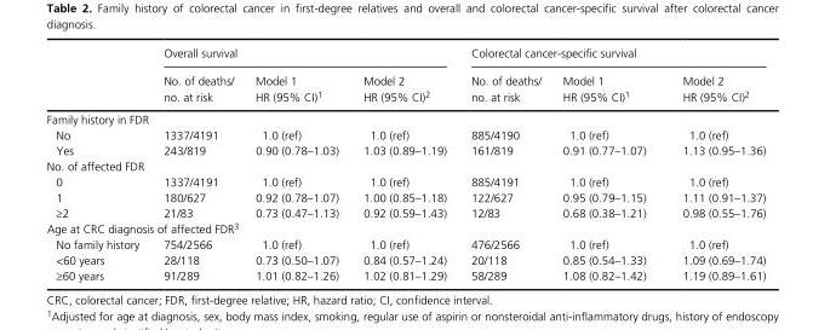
<table><thead><tr><td rowspan="2"></td><td colspan="3">Overall survival</td><td colspan="3">Colorectal cancer- specific survival</td></tr><tr><td>No. of deaths/ no. at risk</td><td>Model 1 HR (95% CI)1</td><td>Model 2 HR (95% CI)2</td><td>No. of deaths/ no. at risk</td><td>Model 1 HR (95% CI)1</td><td>Model 2 HR (95% CI)2</td></tr></thead><tbody><tr><td colspan="7">Family history in FDR</td></tr><tr><td>No</td><td>1337/4191</td><td>1.0 (ref)</td><td>1.0 (ref)</td><td>885/4190</td><td>1.0 (ref)</td><td>1.0 (ref)</td></tr><tr><td>Yes</td><td>243/819</td><td>0.90 (0.78–1.03)</td><td>1.03 (0.89–1.19)</td><td>161/819</td><td>0.91 (0.77–1.07)</td><td>1.13 (0.95–1.36)</td></tr><tr><td colspan="7">No. of affected FDR</td></tr><tr><td>0</td><td>1337/4191</td><td>1.0 (ref)</td><td>1.0 (ref)</td><td>885/4191</td><td>1.0 (ref)</td><td>1.0 (ref)</td></tr><tr><td>1</td><td>180/627</td><td>0.92 (0.78–1.07)</td><td>1.00 (0.85–1.18)</td><td>122/627</td><td>0.95 (0.79–1.15)</td><td>1.11 (0.91–1.37)</td></tr><tr><td>≥2</td><td>21/83</td><td>0.73 (0.47–1.13)</td><td>0.92 (0.59–1.43)</td><td>12/83</td><td>0.68 (0.38–1.21)</td><td>0.98 (0.55–1.76)</td></tr><tr><td colspan="7">Age at CRC diagnosis of affected FDR3</td></tr><tr><td>No family history</td><td>754/2566</td><td>1.0 (ref)</td><td>1.0 (ref)</td><td>476/2566</td><td>1.0 (ref)</td><td>1.0 (ref)</td></tr><tr><td>&lt;60 years</td><td>28/118</td><td>0.73 (0.50–1.07)</td><td>0.84 (0.57–1.24)</td><td>20/118</td><td>0.85 (0.54–1.33)</td><td>1.09 (0.69–1.74)</td></tr><tr><td>≥60 years</td><td>91/289</td><td>1.01 (0.82–1.26)</td><td>1.02 (0.81–1.29)</td><td>58/289</td><td>1.08 (0.82–1.42)</td><td>1.19 (0.89–1.61)</td></tr></tbody></table>